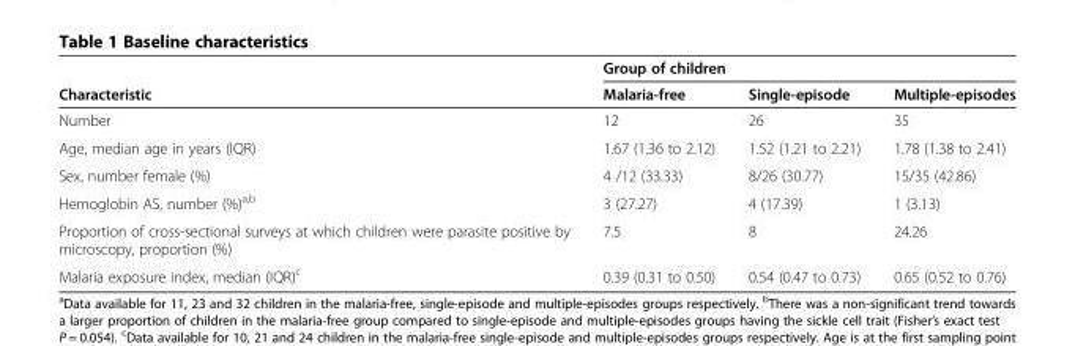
<table><thead><tr><td rowspan="2">Characteristic</td><td colspan="3">Group of children</td></tr><tr><td>Malaria-free</td><td>Single-episode</td><td>Multiple-episodes</td></tr></thead><tbody><tr><td>Number</td><td>12</td><td>26</td><td>35</td></tr><tr><td>Age, median age in years (IQR)</td><td>1.67 (1.36 to 2.12)</td><td>1.52 (1.21 to 2.21)</td><td>1.78 (1.38 to 2.41)</td></tr><tr><td>Sex, number female (%)</td><td>4 /12 (33.33)</td><td>8/26 (30.77)</td><td>15/35 (42.86)</td></tr><tr><td>Hemoglobin AS, number (%)<sup>a,b</sup></td><td>3 (27.27)</td><td>4 (17.39)</td><td>1 (3.13)</td></tr><tr><td>Proportion of cross-sectional surveys at which children were parasite positive by microscopy, proportion (%)</td><td>7.5</td><td>8</td><td>24.26</td></tr><tr><td>Malaria exposure index, median (IQR)<sup>c</sup></td><td>0.39 (0.31 to 0.50)</td><td>0.54 (0.47 to 0.73)</td><td>0.65 (0.52 to 0.76)</td></tr></tbody></table>